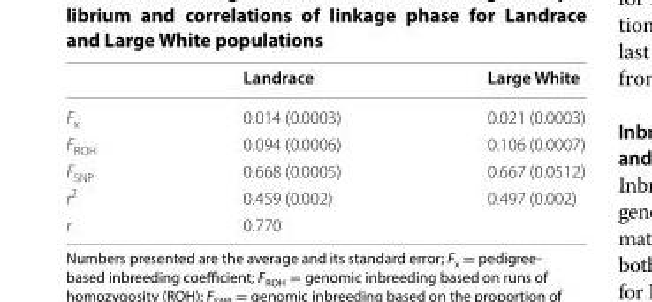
<table><thead><tr><td></td><td>Landrace</td><td>Large White</td></tr></thead><tbody><tr><td>F<sub>x</sub></td><td>0.014 (0.0003)</td><td>0.021 (0.0003)</td></tr><tr><td>F<sub>ROH</sub></td><td>0.094 (0.0006)</td><td>0.106 (0.0007)</td></tr><tr><td>F<sub>SNP</sub></td><td>0.668 (0.0005)</td><td>0.667 (0.0512)</td></tr><tr><td>r<sup>2</sup></td><td>0.459 (0.002)</td><td>0.497 (0.002)</td></tr><tr><td>r</td><td colspan="2">0.770</td></tr></tbody></table>